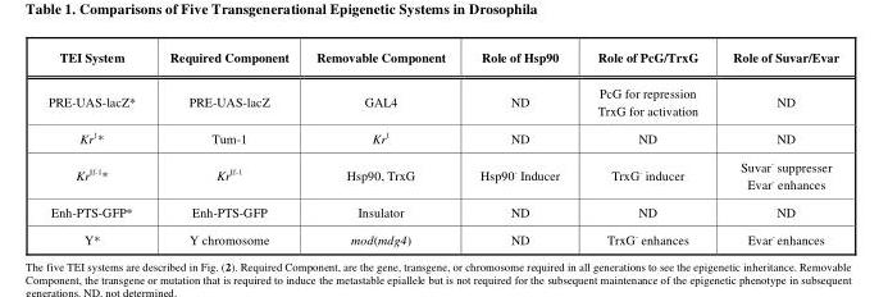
<table><thead><tr><td>TEI System</td><td>Required Component</td><td>Removable Component</td><td>Role of Hsp90</td><td>Role of PcG/TrxG</td><td>Role of Suvar/Evar</td></tr></thead><tbody><tr><td>PRE-UAS-lacZ*</td><td>PRE-UAS-lacZ</td><td>GAL4</td><td>ND</td><td>PcG for repression TrxG for activation</td><td>ND</td></tr><tr><td>Kr<sup>1</sup>*</td><td>Tum-1</td><td>Kr<sup>1</sup></td><td>ND</td><td>ND</td><td>ND</td></tr><tr><td>Kr<sup>If-1</sup>*</td><td>Kr<sup>If-1</sup></td><td>Hsp90, TrxG</td><td>Hsp90<sup>-</sup> Inducer</td><td>TrxG<sup>-</sup> inducer</td><td>Suvar<sup>-</sup> suppresser Evar<sup>-</sup> enhances</td></tr><tr><td>Enh-PTS-GFP*</td><td>Enh-PTS-GFP</td><td>Insulator</td><td>ND</td><td>ND</td><td>ND</td></tr><tr><td>Y*</td><td>Y chromosome</td><td>mod(mdg4)</td><td>ND</td><td>TrxG<sup>-</sup> enhances</td><td>Evar<sup>-</sup> enhances</td></tr></tbody></table>